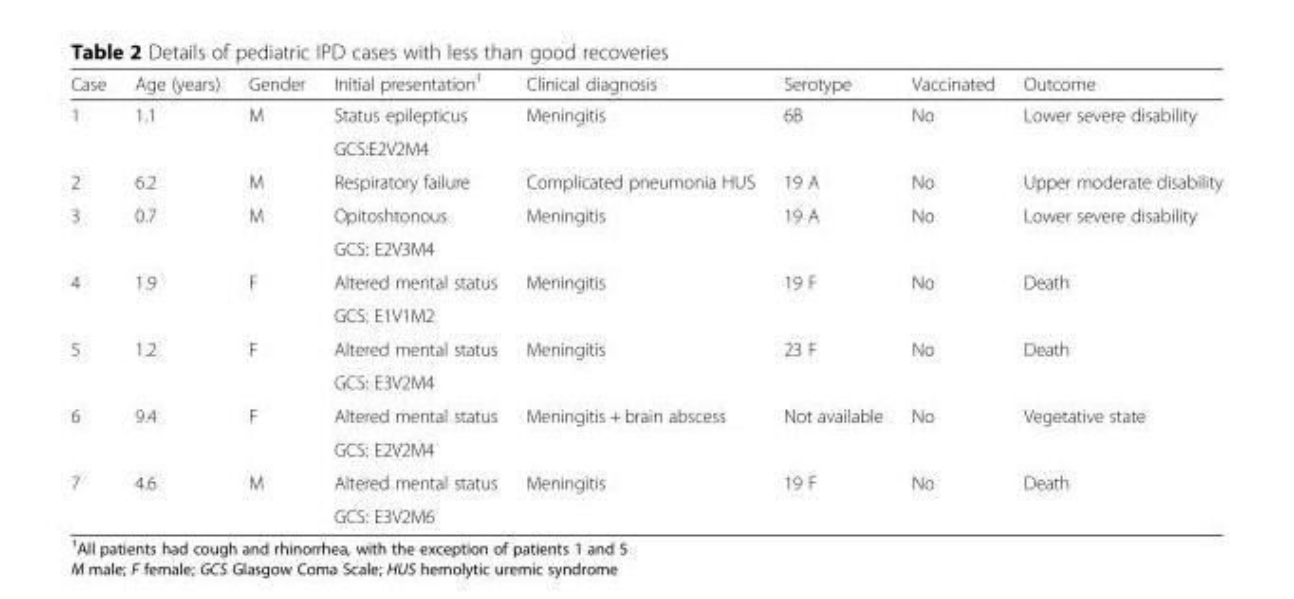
<table><thead><tr><td>Case</td><td>Age (years)</td><td>Gender</td><td>Initial presentation<sup>1</sup></td><td>Clinical diagnosis</td><td>Serotype</td><td>Vaccinated</td><td>Outcome</td></tr></thead><tbody><tr><td rowspan="2">1</td><td rowspan="2">1.1</td><td rowspan="2">M</td><td>Status epilepticus</td><td rowspan="2">Meningitis</td><td rowspan="2">6B</td><td rowspan="2">No</td><td rowspan="2">Lower severe disability</td></tr><tr><td>GCS:E2V2M4</td></tr><tr><td>2</td><td>6.2</td><td>M</td><td>Respiratory failure</td><td>Complicated pneumonia HUS</td><td>19 A</td><td>No</td><td>Upper moderate disability</td></tr><tr><td rowspan="2">3</td><td rowspan="2">0.7</td><td rowspan="2">M</td><td>Opitoshtonous</td><td rowspan="2">Meningitis</td><td rowspan="2">19 A</td><td rowspan="2">No</td><td rowspan="2">Lower severe disability</td></tr><tr><td>GCS: E2V3M4</td></tr><tr><td rowspan="2">4</td><td rowspan="2">1.9</td><td rowspan="2">F</td><td>Altered mental status</td><td rowspan="2">Meningitis</td><td rowspan="2">19 F</td><td rowspan="2">No</td><td rowspan="2">Death</td></tr><tr><td>GCS: E1V1M2</td></tr><tr><td rowspan="2">5</td><td rowspan="2">1.2</td><td rowspan="2">F</td><td>Altered mental status</td><td rowspan="2">Meningitis</td><td rowspan="2">23 F</td><td rowspan="2">No</td><td rowspan="2">Death</td></tr><tr><td>GCS: E3V2M4</td></tr><tr><td rowspan="2">6</td><td rowspan="2">9.4</td><td rowspan="2">F</td><td>Altered mental status</td><td rowspan="2">Meningitis + brain abscess</td><td rowspan="2">Not available</td><td rowspan="2">No</td><td rowspan="2">Vegetative state</td></tr><tr><td>GCS: E2V2M4</td></tr><tr><td rowspan="2">7</td><td rowspan="2">4.6</td><td rowspan="2">M</td><td>Altered mental status</td><td rowspan="2">Meningitis</td><td rowspan="2">19 F</td><td rowspan="2">No</td><td rowspan="2">Death</td></tr><tr><td>GCS: E3V2M6</td></tr></tbody></table>